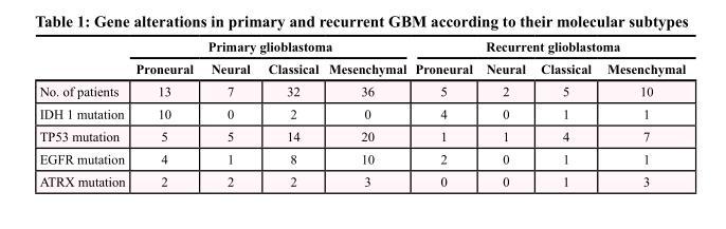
<table><thead><tr><td rowspan="2"></td><td colspan="4">Primary glioblastoma</td><td colspan="4">Recurrent glioblastoma</td></tr><tr><td>Proneural</td><td>Neural</td><td>Classical</td><td>Mesenchymal</td><td>Proneural</td><td>Neural</td><td>Classical</td><td>Mesenchymal</td></tr></thead><tbody><tr><td>No. of patients</td><td>13</td><td>7</td><td>32</td><td>36</td><td>5</td><td>2</td><td>5</td><td>10</td></tr><tr><td>IDH 1 mutation</td><td>10</td><td>0</td><td>2</td><td>0</td><td>4</td><td>0</td><td>1</td><td>1</td></tr><tr><td>TP53 mutation</td><td>5</td><td>5</td><td>14</td><td>20</td><td>1</td><td>1</td><td>4</td><td>7</td></tr><tr><td>EGFR mutation</td><td>4</td><td>1</td><td>8</td><td>10</td><td>2</td><td>0</td><td>1</td><td>1</td></tr><tr><td>ATRX mutation</td><td>2</td><td>2</td><td>2</td><td>3</td><td>0</td><td>0</td><td>1</td><td>3</td></tr></tbody></table>